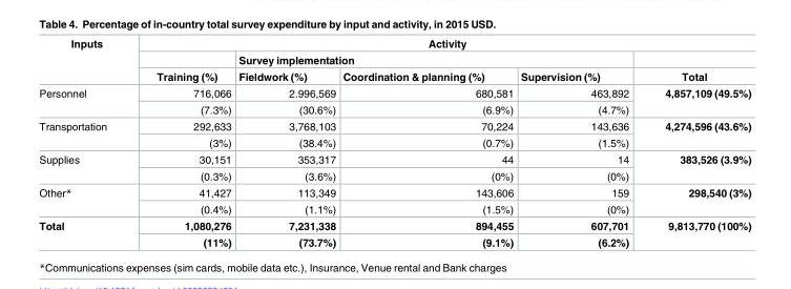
<table><thead><tr><td rowspan="3">Inputs</td><td colspan="5">Activity</td></tr><tr><td rowspan="2">Training (%)</td><td colspan="3">Survey implementation</td><td rowspan="2">Total</td></tr><tr><td>Fieldwork (%)</td><td>Coordination &amp; planning (%)</td><td>Supervision (%)</td></tr></thead><tbody><tr><td rowspan="2">Personnel</td><td>716,066</td><td>2.996,569</td><td>680,581</td><td>463,892</td><td rowspan="2">4,857,109 (49.5%)</td></tr><tr><td>(7.3%)</td><td>(30.6%)</td><td>(6.9%)</td><td>(4.7%)</td></tr><tr><td rowspan="2">Transportation</td><td>292,633</td><td>3,768,103</td><td>70,224</td><td>143,636</td><td rowspan="2">4,274,596 (43.6%)</td></tr><tr><td>(3%)</td><td>(38.4%)</td><td>(0.7%)</td><td>(1.5%)</td></tr><tr><td rowspan="2">Supplies</td><td>30,151</td><td>353,317</td><td>44</td><td>14</td><td rowspan="2">383,526 (3.9%)</td></tr><tr><td>(0.3%)</td><td>(3.6%)</td><td>(0%)</td><td>(0%)</td></tr><tr><td rowspan="2">Other*</td><td>41,427</td><td>113,349</td><td>143,606</td><td>159</td><td rowspan="2">298,540 (3%)</td></tr><tr><td>(0.4%)</td><td>(1.1%)</td><td>(1.5%)</td><td>(0%)</td></tr><tr><td rowspan="2">Total</td><td>1,080,276</td><td>7,231,338</td><td>894,455</td><td>607,701</td><td rowspan="2">9,813,770 (100%)</td></tr><tr><td>(11%)</td><td>(73.7%)</td><td>(9.1%)</td><td>(6.2%)</td></tr></tbody></table>